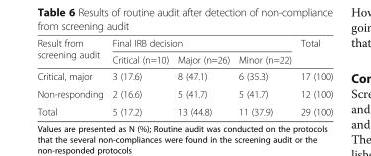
<table><thead><tr><td rowspan="2">Result from screening audit</td><td colspan="3">Final IRB decision</td><td rowspan="2">Total</td></tr><tr><td>Critical (n=10)</td><td>Major (n=26)</td><td>Minor (n=22)</td></tr></thead><tbody><tr><td>Critical, major</td><td>3 (17.6)</td><td>8 (47.1)</td><td>6 (35.3)</td><td>17 (100)</td></tr><tr><td>Non-responding</td><td>2 (16.6)</td><td>5 (41.7)</td><td>5 (41.7)</td><td>12 (100)</td></tr><tr><td>Total</td><td>5 (17.2)</td><td>13 (44.8)</td><td>11 (37.9)</td><td>29 (100)</td></tr></tbody></table>